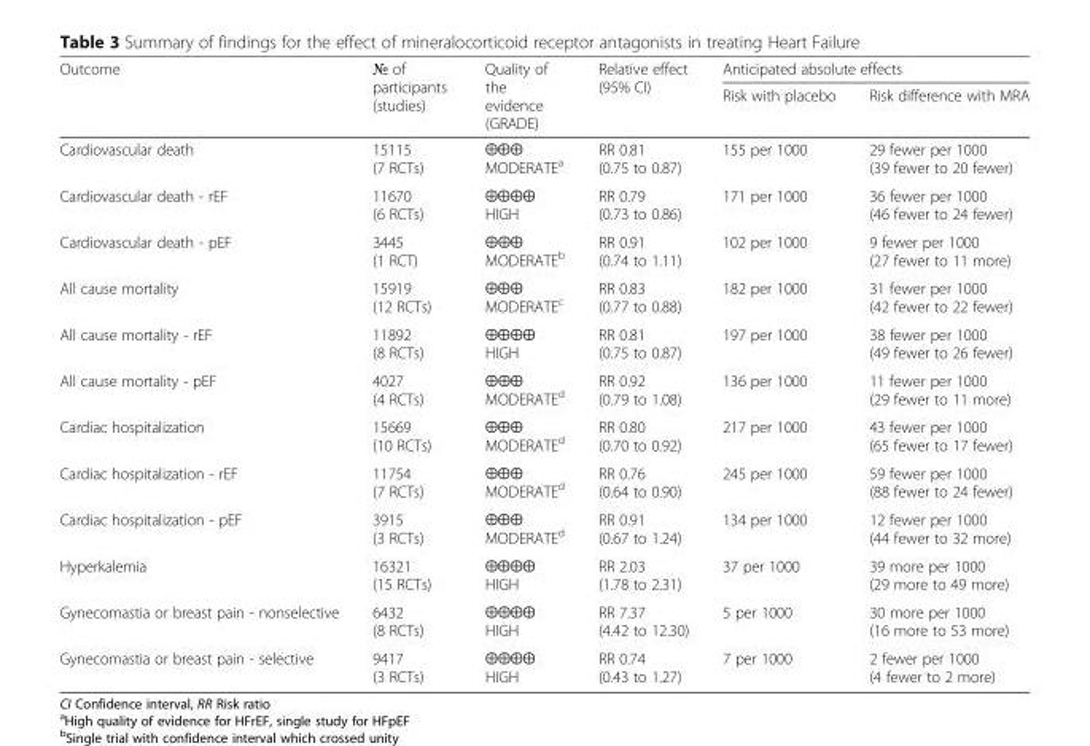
<table><thead><tr><td rowspan="2">Outcome</td><td rowspan="2">№ of participants (studies)</td><td rowspan="2">Quality of the evidence (GRADE)</td><td rowspan="2">Relative effect (95% CI)</td><td colspan="2">Anticipated absolute effects</td></tr><tr><td>Risk with placebo</td><td>Risk difference with MRA</td></tr></thead><tbody><tr><td>Cardiovascular death</td><td>15115 (7 RCTs)</td><td>⨁⨁⨁ MODERATE<sup>a</sup></td><td>RR 0.81 (0.75 to 0.87)</td><td>155 per 1000</td><td>29 fewer per 1000 (39 fewer to 20 fewer)</td></tr><tr><td>Cardiovascular death - rEF</td><td>11670 (6 RCTs)</td><td>⨁⨁⨁⨁ HIGH</td><td>RR 0.79 (0.73 to 0.86)</td><td>171 per 1000</td><td>36 fewer per 1000 (46 fewer to 24 fewer)</td></tr><tr><td>Cardiovascular death - pEF</td><td>3445 (1 RCT)</td><td>⨁⨁⨁ MODERATE<sup>b</sup></td><td>RR 0.91 (0.74 to 1.11)</td><td>102 per 1000</td><td>9 fewer per 1000 (27 fewer to 11 more)</td></tr><tr><td>All cause mortality</td><td>15919 (12 RCTs)</td><td>⨁⨁⨁ MODERATE<sup>c</sup></td><td>RR 0.83 (0.77 to 0.88)</td><td>182 per 1000</td><td>31 fewer per 1000 (42 fewer to 22 fewer)</td></tr><tr><td>All cause mortality - rEF</td><td>11892 (8 RCTs)</td><td>⨁⨁⨁⨁ HIGH</td><td>RR 0.81 (0.75 to 0.87)</td><td>197 per 1000</td><td>38 fewer per 1000 (49 fewer to 26 fewer)</td></tr><tr><td>All cause mortality - pEF</td><td>4027 (4 RCTs)</td><td>⨁⨁⨁ MODERATE<sup>d</sup></td><td>RR 0.92 (0.79 to 1.08)</td><td>136 per 1000</td><td>11 fewer per 1000 (29 fewer to 11 more)</td></tr><tr><td>Cardiac hospitalization</td><td>15669 (10 RCTs)</td><td>⨁⨁⨁ MODERATE<sup>d</sup></td><td>RR 0.80 (0.70 to 0.92)</td><td>217 per 1000</td><td>43 fewer per 1000 (65 fewer to 17 fewer)</td></tr><tr><td>Cardiac hospitalization - rEF</td><td>11754 (7 RCTs)</td><td>⨁⨁⨁ MODERATE<sup>d</sup></td><td>RR 0.76 (0.64 to 0.90)</td><td>245 per 1000</td><td>59 fewer per 1000 (88 fewer to 24 fewer)</td></tr><tr><td>Cardiac hospitalization - pEF</td><td>3915 (3 RCTs)</td><td>⨁⨁⨁ MODERATE<sup>d</sup></td><td>RR 0.91 (0.67 to 1.24)</td><td>134 per 1000</td><td>12 fewer per 1000 (44 fewer to 32 more)</td></tr><tr><td>Hyperkalemia</td><td>16321 (15 RCTs)</td><td>⨁⨁⨁⨁ HIGH</td><td>RR 2.03 (1.78 to 2.31)</td><td>37 per 1000</td><td>39 more per 1000 (29 more to 49 more)</td></tr><tr><td>Gynecomastia or breast pain - nonselective</td><td>6432 (8 RCTs)</td><td>⨁⨁⨁⨁ HIGH</td><td>RR 7.37 (4.42 to 12.30)</td><td>5 per 1000</td><td>30 more per 1000 (16 more to 53 more)</td></tr><tr><td>Gynecomastia or breast pain - selective</td><td>9417 (3 RCTs)</td><td>⨁⨁⨁⨁ HIGH</td><td>RR 0.74 (0.43 to 1.27)</td><td>7 per 1000</td><td>2 fewer per 1000 (4 fewer to 2 more)</td></tr></tbody></table>